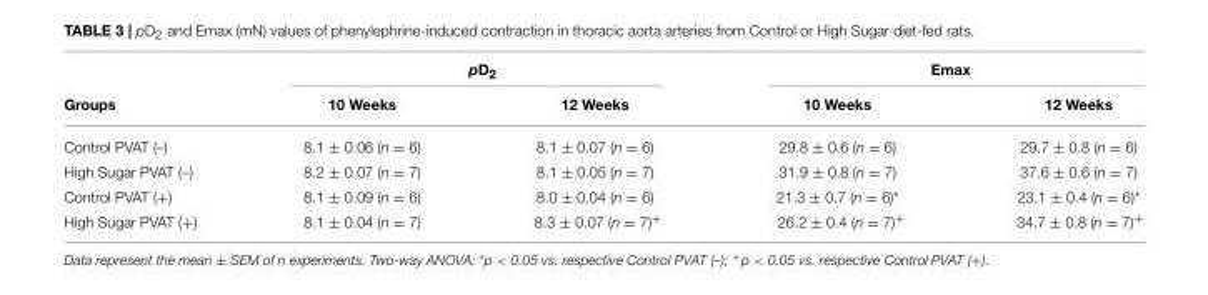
<table><thead><tr><td rowspan="2">Groups</td><td colspan="2">pD<sub>2</sub></td><td colspan="2">Emax</td></tr><tr><td>10 Weeks</td><td>12 Weeks</td><td>10 Weeks</td><td>12 Weeks</td></tr></thead><tbody><tr><td>Control PVAT (–)</td><td>8.1 ± 0.06 (n = 6)</td><td>8.1 ± 0.07 (n = 6)</td><td>29.8 ± 0.6 (n = 6)</td><td>29.7 ± 0.8 (n = 6)</td></tr><tr><td>High Sugar PVAT (–)</td><td>8.2 ± 0.07 (n = 7)</td><td>8.1 ± 0.05 (n = 7)</td><td>31.9 ± 0.8 (n = 7)</td><td>37.6 ± 0.6 (n = 7)</td></tr><tr><td>Control PVAT (+)</td><td>8.1 ± 0.09 (n = 6)</td><td>8.0 ± 0.04 (n = 6)</td><td>21.3 ± 0.7 (n = 6)*</td><td>23.1 ± 0.4 (n = 6)*</td></tr><tr><td>High Sugar PVAT (+)</td><td>8.1 ± 0.04 (n = 7)</td><td>8.3 ± 0.07 (n = 7)<sup>+</sup></td><td>26.2 ± 0.4 (n = 7)<sup>+</sup></td><td>34.7 ± 0.8 (n = 7)<sup>+</sup></td></tr></tbody></table>